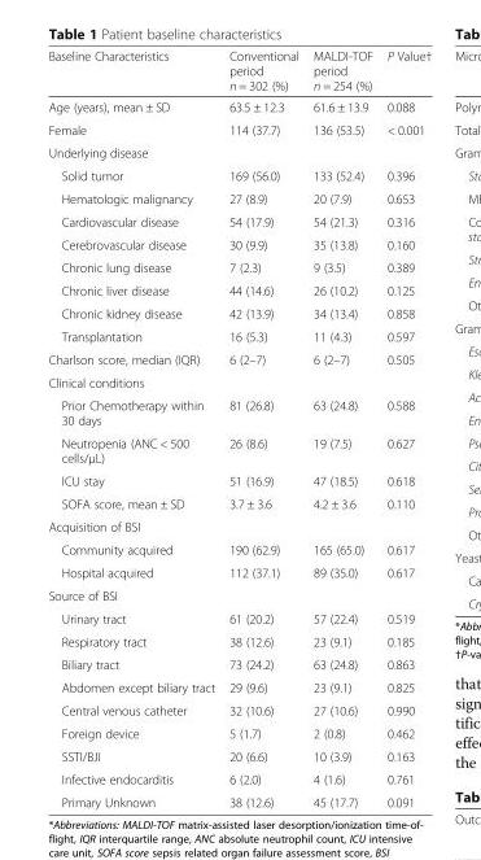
<table><thead><tr><td>Baseline Characteristics</td><td>Conventional period n = 302 (%)</td><td>MALDI-TOF period n = 254 (%)</td><td>P Value†</td></tr></thead><tbody><tr><td>Age (years), mean ± SD</td><td>63.5 ± 12.3</td><td>61.6 ± 13.9</td><td>0.088</td></tr><tr><td>Female</td><td>114 (37.7)</td><td>136 (53.5)</td><td>&lt; 0.001</td></tr><tr><td colspan="4">Underlying disease</td></tr><tr><td>Solid tumor</td><td>169 (56.0)</td><td>133 (52.4)</td><td>0.396</td></tr><tr><td>Hematologic malignancy</td><td>27 (8.9)</td><td>20 (7.9)</td><td>0.653</td></tr><tr><td>Cardiovascular disease</td><td>54 (17.9)</td><td>54 (21.3)</td><td>0.316</td></tr><tr><td>Cerebrovascular disease</td><td>30 (9.9)</td><td>35 (13.8)</td><td>0.160</td></tr><tr><td>Chronic lung disease</td><td>7 (2.3)</td><td>9 (3.5)</td><td>0.389</td></tr><tr><td>Chronic liver disease</td><td>44 (14.6)</td><td>26 (10.2)</td><td>0.125</td></tr><tr><td>Chronic kidney disease</td><td>42 (13.9)</td><td>34 (13.4)</td><td>0.858</td></tr><tr><td>Transplantation</td><td>16 (5.3)</td><td>11 (4.3)</td><td>0.597</td></tr><tr><td>Charlson score, median (IQR)</td><td>6 (2–7)</td><td>6 (2–7)</td><td>0.505</td></tr><tr><td colspan="4">Clinical conditions</td></tr><tr><td>Prior Chemotherapy within 30 days</td><td>81 (26.8)</td><td>63 (24.8)</td><td>0.588</td></tr><tr><td>Neutropenia (ANC &lt; 500 cells/μL)</td><td>26 (8.6)</td><td>19 (7.5)</td><td>0.627</td></tr><tr><td>ICU stay</td><td>51 (16.9)</td><td>47 (18.5)</td><td>0.618</td></tr><tr><td>SOFA score, mean ± SD</td><td>3.7 ± 3.6</td><td>4.2 ± 3.6</td><td>0.110</td></tr><tr><td colspan="4">Acquisition of BSI</td></tr><tr><td>Community acquired</td><td>190 (62.9)</td><td>165 (65.0)</td><td>0.617</td></tr><tr><td>Hospital acquired</td><td>112 (37.1)</td><td>89 (35.0)</td><td>0.617</td></tr><tr><td colspan="4">Source of BSI</td></tr><tr><td>Urinary tract</td><td>61 (20.2)</td><td>57 (22.4)</td><td>0.519</td></tr><tr><td>Respiratory tract</td><td>38 (12.6)</td><td>23 (9.1)</td><td>0.185</td></tr><tr><td>Biliary tract</td><td>73 (24.2)</td><td>63 (24.8)</td><td>0.863</td></tr><tr><td>Abdomen except biliary tract</td><td>29 (9.6)</td><td>23 (9.1)</td><td>0.825</td></tr><tr><td>Central venous catheter</td><td>32 (10.6)</td><td>27 (10.6)</td><td>0.990</td></tr><tr><td>Foreign device</td><td>5 (1.7)</td><td>2 (0.8)</td><td>0.462</td></tr><tr><td>SSTI/BJI</td><td>20 (6.6)</td><td>10 (3.9)</td><td>0.163</td></tr><tr><td>Infective endocarditis</td><td>6 (2.0)</td><td>4 (1.6)</td><td>0.761</td></tr><tr><td>Primary Unknown</td><td>38 (12.6)</td><td>45 (17.7)</td><td>0.091</td></tr></tbody></table>